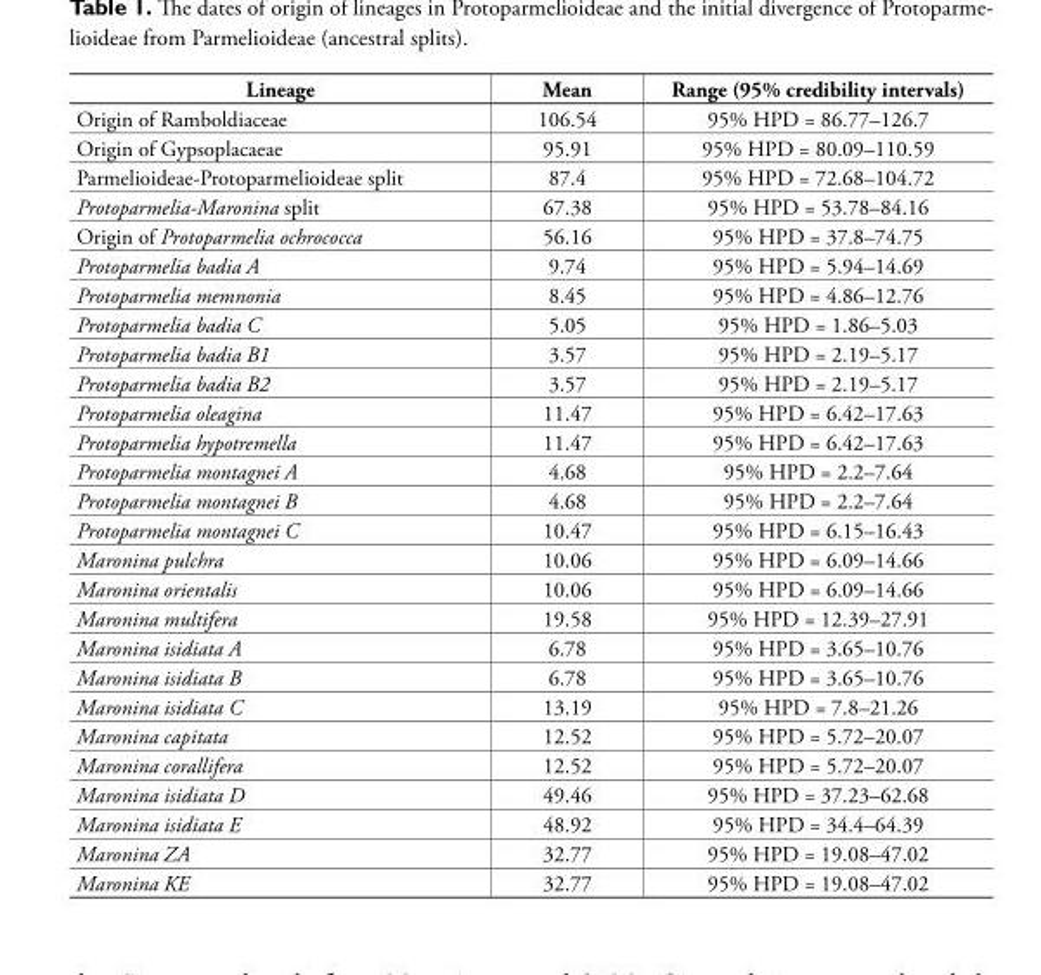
<table><thead><tr><td>Lineage</td><td>Mean</td><td>Range (95% credibility intervals)</td></tr></thead><tbody><tr><td>Origin of Ramboldiaceae</td><td>106.54</td><td>95% HPD = 86.77–126.7</td></tr><tr><td>Origin of Gypsoplacaeae</td><td>95.91</td><td>95% HPD = 80.09–110.59</td></tr><tr><td>Parmelioideae-Protoparmelioideae split</td><td>87.4</td><td>95% HPD = 72.68–104.72</td></tr><tr><td>Protoparmelia-Maronina split</td><td>67.38</td><td>95% HPD = 53.78–84.16</td></tr><tr><td>Origin of Protoparmelia ochrococca</td><td>56.16</td><td>95% HPD = 37.8–74.75</td></tr><tr><td>Protoparmelia badia A</td><td>9.74</td><td>95% HPD = 5.94–14.69</td></tr><tr><td>Protoparmelia memnonia</td><td>8.45</td><td>95% HPD = 4.86–12.76</td></tr><tr><td>Protoparmelia badia C</td><td>5.05</td><td>95% HPD = 1.86–5.03</td></tr><tr><td>Protoparmelia badia B1</td><td>3.57</td><td>95% HPD = 2.19–5.17</td></tr><tr><td>Protoparmelia badia B2</td><td>3.57</td><td>95% HPD = 2.19–5.17</td></tr><tr><td>Protoparmelia oleagina</td><td>11.47</td><td>95% HPD = 6.42–17.63</td></tr><tr><td>Protoparmelia hypotremella</td><td>11.47</td><td>95% HPD = 6.42–17.63</td></tr><tr><td>Protoparmelia montagnei A</td><td>4.68</td><td>95% HPD = 2.2–7.64</td></tr><tr><td>Protoparmelia montagnei B</td><td>4.68</td><td>95% HPD = 2.2–7.64</td></tr><tr><td>Protoparmelia montagnei C</td><td>10.47</td><td>95% HPD = 6.15–16.43</td></tr><tr><td>Maronina pulchra</td><td>10.06</td><td>95% HPD = 6.09–14.66</td></tr><tr><td>Maronina orientalis</td><td>10.06</td><td>95% HPD = 6.09–14.66</td></tr><tr><td>Maronina multifera</td><td>19.58</td><td>95% HPD = 12.39–27.91</td></tr><tr><td>Maronina isidiata A</td><td>6.78</td><td>95% HPD = 3.65–10.76</td></tr><tr><td>Maronina isidiata B</td><td>6.78</td><td>95% HPD = 3.65–10.76</td></tr><tr><td>Maronina isidiata C</td><td>13.19</td><td>95% HPD = 7.8–21.26</td></tr><tr><td>Maronina capitata</td><td>12.52</td><td>95% HPD = 5.72–20.07</td></tr><tr><td>Maronina corallifera</td><td>12.52</td><td>95% HPD = 5.72–20.07</td></tr><tr><td>Maronina isidiata D</td><td>49.46</td><td>95% HPD = 37.23–62.68</td></tr><tr><td>Maronina isidiata E</td><td>48.92</td><td>95% HPD = 34.4–64.39</td></tr><tr><td>Maronina ZA</td><td>32.77</td><td>95% HPD = 19.08–47.02</td></tr><tr><td>Maronina KE</td><td>32.77</td><td>95% HPD = 19.08–47.02</td></tr></tbody></table>